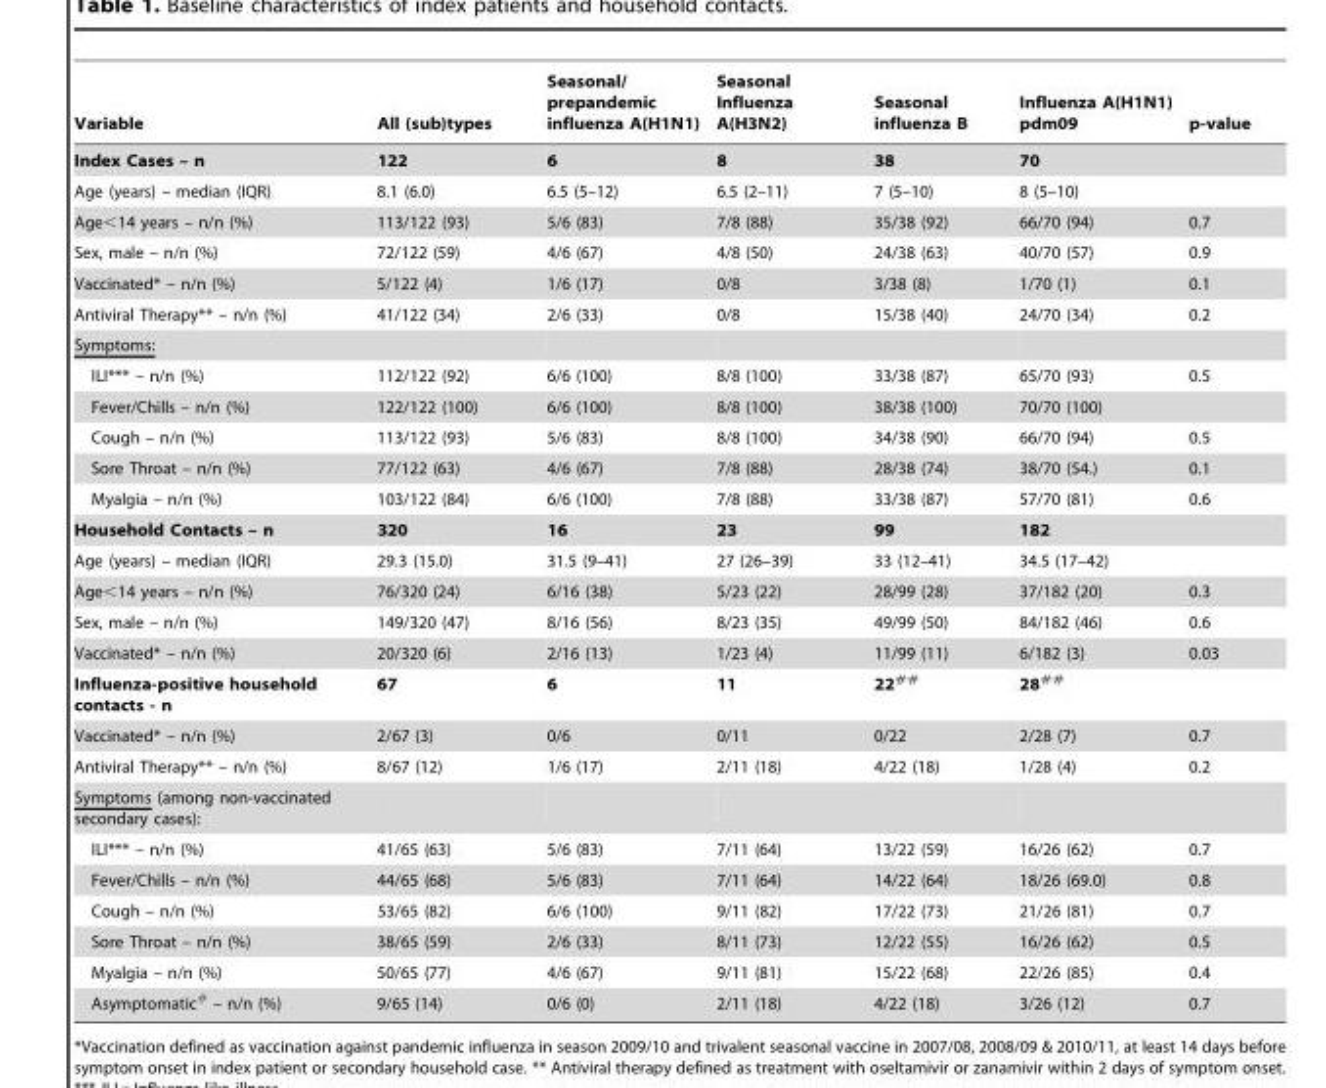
<table><thead><tr><td>Variable</td><td>All (sub)types</td><td>Seasonal/ prepandemic influenza A(H1N1)</td><td>Seasonal Influenza A(H3N2)</td><td>Seasonal influenza B</td><td>Influenza A(H1N1) pdm09</td><td>p-value</td></tr></thead><tbody><tr><td>Index Cases – n</td><td>122</td><td>6</td><td>8</td><td>38</td><td>70</td><td></td></tr><tr><td>Age (years) – median (IQR)</td><td>8.1 (6.0)</td><td>6.5 (5–12)</td><td>6.5 (2–11)</td><td>7 (5–10)</td><td>8 (5–10)</td><td></td></tr><tr><td>Age&lt;14 years – n/n (%)</td><td>113/122 (93)</td><td>5/6 (83)</td><td>7/8 (88)</td><td>35/38 (92)</td><td>66/70 (94)</td><td>0.7</td></tr><tr><td>Sex, male – n/n (%)</td><td>72/122 (59)</td><td>4/6 (67)</td><td>4/8 (50)</td><td>24/38 (63)</td><td>40/70 (57)</td><td>0.9</td></tr><tr><td>Vaccinated* – n/n (%)</td><td>5/122 (4)</td><td>1/6 (17)</td><td>0/8</td><td>3/38 (8)</td><td>1/70 (1)</td><td>0.1</td></tr><tr><td>Antiviral Therapy** – n/n (%)</td><td>41/122 (34)</td><td>2/6 (33)</td><td>0/8</td><td>15/38 (40)</td><td>24/70 (34)</td><td>0.2</td></tr><tr><td colspan="7">Symptoms:</td></tr><tr><td>ILI*** – n/n (%)</td><td>112/122 (92)</td><td>6/6 (100)</td><td>8/8 (100)</td><td>33/38 (87)</td><td>65/70 (93)</td><td>0.5</td></tr><tr><td>Fever/Chills – n/n (%)</td><td>122/122 (100)</td><td>6/6 (100)</td><td>8/8 (100)</td><td>38/38 (100)</td><td>70/70 (100)</td><td></td></tr><tr><td>Cough – n/n (%)</td><td>113/122 (93)</td><td>5/6 (83)</td><td>8/8 (100)</td><td>34/38 (90)</td><td>66/70 (94)</td><td>0.5</td></tr><tr><td>Sore Throat – n/n (%)</td><td>77/122 (63)</td><td>4/6 (67)</td><td>7/8 (88)</td><td>28/38 (74)</td><td>38/70 (54.)</td><td>0.1</td></tr><tr><td>Myalgia – n/n (%)</td><td>103/122 (84)</td><td>6/6 (100)</td><td>7/8 (88)</td><td>33/38 (87)</td><td>57/70 (81)</td><td>0.6</td></tr><tr><td>Household Contacts – n</td><td>320</td><td>16</td><td>23</td><td>99</td><td>182</td><td></td></tr><tr><td>Age (years) – median (IQR)</td><td>29.3 (15.0)</td><td>31.5 (9–41)</td><td>27 (26–39)</td><td>33 (12–41)</td><td>34.5 (17–42)</td><td></td></tr><tr><td>Age&lt;14 years – n/n (%)</td><td>76/320 (24)</td><td>6/16 (38)</td><td>5/23 (22)</td><td>28/99 (28)</td><td>37/182 (20)</td><td>0.3</td></tr><tr><td>Sex, male – n/n (%)</td><td>149/320 (47)</td><td>8/16 (56)</td><td>8/23 (35)</td><td>49/99 (50)</td><td>84/182 (46)</td><td>0.6</td></tr><tr><td>Vaccinated* – n/n (%)</td><td>20/320 (6)</td><td>2/16 (13)</td><td>1/23 (4)</td><td>11/99 (11)</td><td>6/182 (3)</td><td>0.03</td></tr><tr><td>Influenza-positive household contacts - n</td><td>67</td><td>6</td><td>11</td><td>22##</td><td>28##</td><td></td></tr><tr><td>Vaccinated* – n/n (%)</td><td>2/67 (3)</td><td>0/6</td><td>0/11</td><td>0/22</td><td>2/28 (7)</td><td>0.7</td></tr><tr><td>Antiviral Therapy** – n/n (%)</td><td>8/67 (12)</td><td>1/6 (17)</td><td>2/11 (18)</td><td>4/22 (18)</td><td>1/28 (4)</td><td>0.2</td></tr><tr><td colspan="7">Symptoms (among non-vaccinated secondary cases):</td></tr><tr><td>ILI*** – n/n (%)</td><td>41/65 (63)</td><td>5/6 (83)</td><td>7/11 (64)</td><td>13/22 (59)</td><td>16/26 (62)</td><td>0.7</td></tr><tr><td>Fever/Chills – n/n (%)</td><td>44/65 (68)</td><td>5/6 (83)</td><td>7/11 (64)</td><td>14/22 (64)</td><td>18/26 (69.0)</td><td>0.8</td></tr><tr><td>Cough – n/n (%)</td><td>53/65 (82)</td><td>6/6 (100)</td><td>9/11 (82)</td><td>17/22 (73)</td><td>21/26 (81)</td><td>0.7</td></tr><tr><td>Sore Throat – n/n (%)</td><td>38/65 (59)</td><td>2/6 (33)</td><td>8/11 (73)</td><td>12/22 (55)</td><td>16/26 (62)</td><td>0.5</td></tr><tr><td>Myalgia – n/n (%)</td><td>50/65 (77)</td><td>4/6 (67)</td><td>9/11 (81)</td><td>15/22 (68)</td><td>22/26 (85)</td><td>0.4</td></tr><tr><td>Asymptomatic# – n/n (%)</td><td>9/65 (14)</td><td>0/6 (0)</td><td>2/11 (18)</td><td>4/22 (18)</td><td>3/26 (12)</td><td>0.7</td></tr></tbody></table>